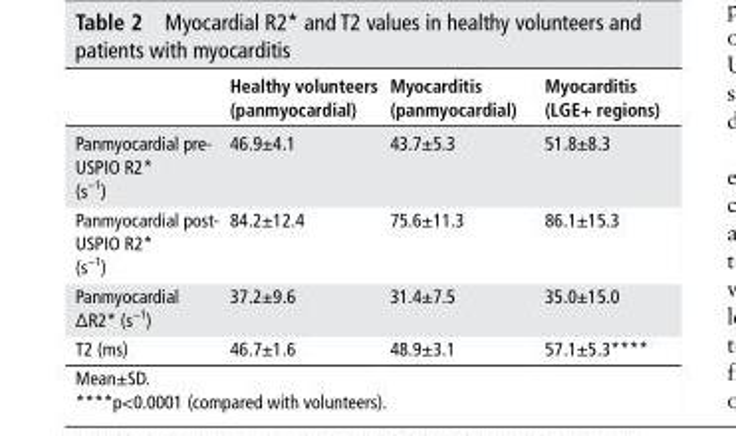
<table><thead><tr><td></td><td>Healthy volunteers (panmyocardial)</td><td>Myocarditis (panmyocardial)</td><td>Myocarditis (lGe+ regions)</td></tr></thead><tbody><tr><td>Panmyocardial pre- USPIO R2* (s<sup>−1</sup>)</td><td>46.9±4.1</td><td>43.7±5.3</td><td>51.8±8.3</td></tr><tr><td>Panmyocardial post- USPIO R2* (s<sup>−1</sup>)</td><td>84.2±12.4</td><td>75.6±11.3</td><td>86.1±15.3</td></tr><tr><td>Panmyocardial ΔR2* (s<sup>−1</sup>)</td><td>37.2±9.6</td><td>31.4±7.5</td><td>35.0±15.0</td></tr><tr><td>T2 (ms)</td><td>46.7±1.6</td><td>48.9±3.1</td><td>57.1±5.3****</td></tr></tbody></table>